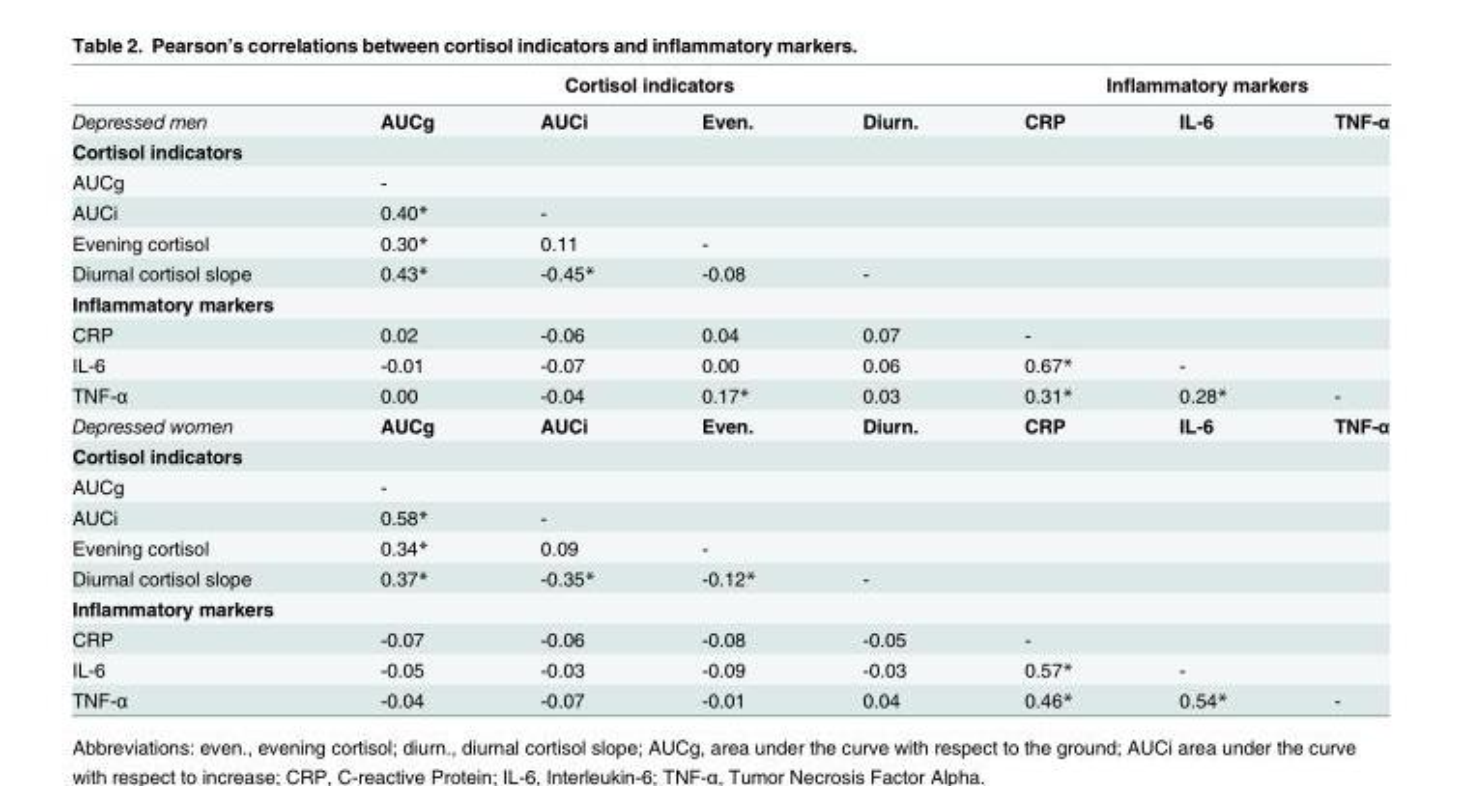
<table><thead><tr><td rowspan="2">Depressed men</td><td colspan="4">Cortisol indicators</td><td colspan="3">Inflammatory markers</td></tr><tr><td>AUCg</td><td>AUCi</td><td>Even.</td><td>Diurn.</td><td>CRP</td><td>IL-6</td><td>TNF-α</td></tr></thead><tbody><tr><td colspan="8">Cortisol indicators</td></tr><tr><td>AUCg</td><td>-</td><td></td><td></td><td></td><td></td><td></td><td></td></tr><tr><td>AUCi</td><td>0.40*</td><td>-</td><td></td><td></td><td></td><td></td><td></td></tr><tr><td>Evening cortisol</td><td>0.30*</td><td>0.11</td><td>-</td><td></td><td></td><td></td><td></td></tr><tr><td>Diurnal cortisol slope</td><td>0.43*</td><td>-0.45*</td><td>-0.08</td><td>-</td><td></td><td></td><td></td></tr><tr><td colspan="8">Inflammatory markers</td></tr><tr><td>CRP</td><td>0.02</td><td>-0.06</td><td>0.04</td><td>0.07</td><td>-</td><td></td><td></td></tr><tr><td>IL-6</td><td>-0.01</td><td>-0.07</td><td>0.00</td><td>0.06</td><td>0.67*</td><td>-</td><td></td></tr><tr><td>TNF-α</td><td>0.00</td><td>-0.04</td><td>0.17*</td><td>0.03</td><td>0.31*</td><td>0.28*</td><td>-</td></tr><tr><td>Depressed women</td><td>AUCg</td><td>AUCi</td><td>Even.</td><td>Diurn.</td><td>CRP</td><td>IL-6</td><td>TNF-α</td></tr><tr><td colspan="8">Cortisol indicators</td></tr><tr><td>AUCg</td><td>-</td><td></td><td></td><td></td><td></td><td></td><td></td></tr><tr><td>AUCi</td><td>0.58*</td><td>-</td><td></td><td></td><td></td><td></td><td></td></tr><tr><td>Evening cortisol</td><td>0.34*</td><td>0.09</td><td>-</td><td></td><td></td><td></td><td></td></tr><tr><td>Diurnal cortisol slope</td><td>0.37*</td><td>-0.35*</td><td>-0.12*</td><td>-</td><td></td><td></td><td></td></tr><tr><td colspan="8">Inflammatory markers</td></tr><tr><td>CRP</td><td>-0.07</td><td>-0.06</td><td>-0.08</td><td>-0.05</td><td>-</td><td></td><td></td></tr><tr><td>IL-6</td><td>-0.05</td><td>-0.03</td><td>-0.09</td><td>-0.03</td><td>0.57*</td><td>-</td><td></td></tr><tr><td>TNF-α</td><td>-0.04</td><td>-0.07</td><td>-0.01</td><td>0.04</td><td>0.46*</td><td>0.54*</td><td>-</td></tr></tbody></table>